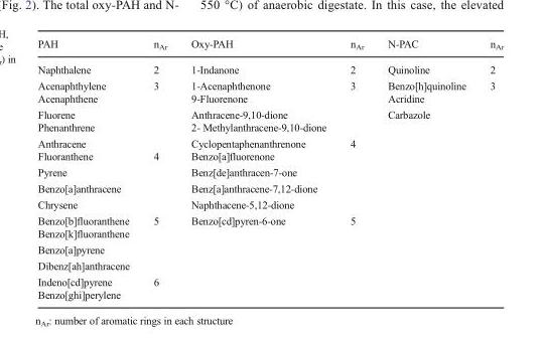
<table><thead><tr><td>PAH</td><td>n<sub>Ar</sub></td><td>Oxy-PAH</td><td>n<sub>Ar</sub></td><td>N-PAC</td><td>n<sub>Ar</sub></td></tr></thead><tbody><tr><td>Naphthalene</td><td>2</td><td>1-Indanone</td><td>2</td><td>Quinoline</td><td>2</td></tr><tr><td>Acenaphthylene</td><td rowspan="5">3</td><td>1-Acenaphthenone</td><td rowspan="4">3</td><td>Benzo[h]quinoline</td><td rowspan="15">3</td></tr><tr><td>Acenaphthene</td><td>9-Fluorenone</td><td>Acridine</td></tr><tr><td>Fluorene</td><td>Anthracene-9,10-dione</td><td rowspan="13">Carbazole</td></tr><tr><td>Phenanthrene</td><td>2- Methylanthracene-9,10-dione</td></tr><tr><td>Anthracene</td><td>Cyclopentaphenanthrenone</td><td rowspan="5">4</td></tr><tr><td>Fluoranthene</td><td rowspan="4">4</td><td>Benzo[a]fluorenone</td></tr><tr><td>Pyrene</td><td>Benz[de]anthracen-7-one</td></tr><tr><td>Benzo[a]anthracene</td><td>Benz[a]anthracene-7,12-dione</td></tr><tr><td>Chrysene</td><td>Naphthacene-5,12-dione</td></tr><tr><td>Benzo[b]fluoranthene</td><td rowspan="4">5</td><td rowspan="6">Benzo[cd]pyren-6-one</td><td rowspan="6">5</td></tr><tr><td>Benzo[k]fluoranthene</td></tr><tr><td>Benzo[a]pyrene</td></tr><tr><td>Dibenz[ah]anthracene</td></tr><tr><td>Indeno[cd]pyrene</td><td rowspan="2">6</td></tr><tr><td>Benzo[ghi]perylene</td></tr></tbody></table>